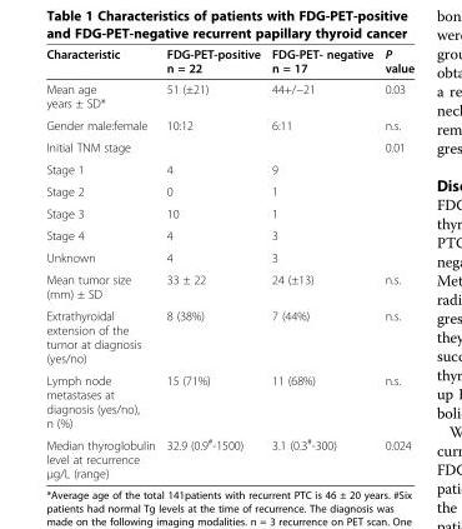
<table><thead><tr><td>Characteristic</td><td>FDG-PET-positive n = 22</td><td>FDG-PET- negative n = 17</td><td>P value</td></tr></thead><tbody><tr><td>Mean age years ± SD*</td><td>51 (±21)</td><td>44+/−21</td><td>0.03</td></tr><tr><td>Gender male:female</td><td>10:12</td><td>6:11</td><td>n.s.</td></tr><tr><td>Initial TNM stage</td><td></td><td></td><td>0.01</td></tr><tr><td>Stage 1</td><td>4</td><td>9</td><td></td></tr><tr><td>Stage 2</td><td>0</td><td>1</td><td></td></tr><tr><td>Stage 3</td><td>10</td><td>1</td><td></td></tr><tr><td>Stage 4</td><td>4</td><td>3</td><td></td></tr><tr><td>Unknown</td><td>4</td><td>3</td><td></td></tr><tr><td>Mean tumor size (mm) ± SD</td><td>33 ± 22</td><td>24 (±13)</td><td>n.s.</td></tr><tr><td>Extrathyroidal extension of the tumor at diagnosis (yes/no)</td><td>8 (38%)</td><td>7 (44%)</td><td>n.s.</td></tr><tr><td>Lymph node metastases at diagnosis (yes/no), n (%)</td><td>15 (71%)</td><td>11 (68%)</td><td>n.s.</td></tr><tr><td>Median thyroglobulin level at recurrence μg/L (range)</td><td>32.9 (0.9<sup>#</sup>-1500)</td><td>3.1 (0.3<sup>#</sup>-300)</td><td>0.024</td></tr></tbody></table>